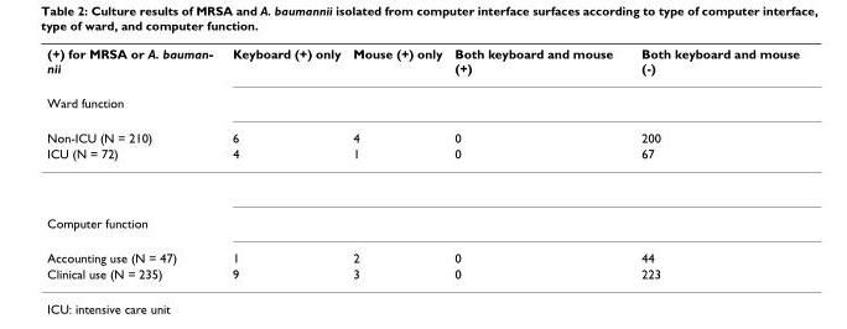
<table><thead><tr><td rowspan="4">(+) for MRSA or A. bauman- nii Ward function Non-ICU (N = 210) ICU (N = 72)</td><td rowspan="4">Keyboard (+) only 6 4</td><td rowspan="4">Mouse (+) only 4 1</td><td rowspan="4">Both keyboard and mouse (+) 0 0</td><td rowspan="4">Both keyboard and mouse (-) 200 67</td></tr><tr></tr><tr></tr><tr></tr></thead><tbody><tr><td colspan="5">Computer function</td></tr><tr><td>Accounting use (N = 47)</td><td>1</td><td>2</td><td>0</td><td>44</td></tr><tr><td>Clinical use (N = 235)</td><td>9</td><td>3</td><td>0</td><td>223</td></tr></tbody></table>